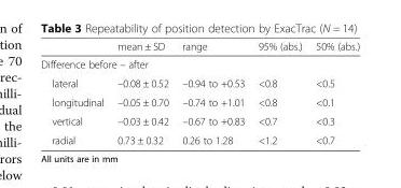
<table><thead><tr><td></td><td>mean ± SD</td><td>range</td><td>95% (abs.)</td><td>50% (abs.)</td></tr></thead><tbody><tr><td colspan="5">Difference before – after</td></tr><tr><td>lateral</td><td>–0.08 ± 0.52</td><td>–0.94 to +0.53</td><td>&lt;0.8</td><td>&lt;0.5</td></tr><tr><td>longitudinal</td><td>–0.05 ± 0.70</td><td>–0.74 to +1.01</td><td>&lt;0.8</td><td>&lt;0.1</td></tr><tr><td>vertical</td><td>–0.03 ± 0.42</td><td>–0.67 to +0.83</td><td>&lt;0.7</td><td>&lt;0.3</td></tr><tr><td>radial</td><td>0.73 ± 0.32</td><td>0.26 to 1.28</td><td>&lt;1.2</td><td>&lt;0.7</td></tr></tbody></table>